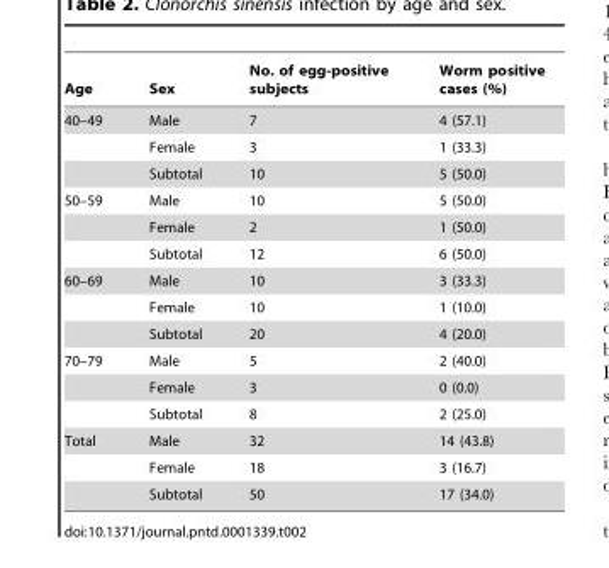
<table><thead><tr><td>Age</td><td>Sex</td><td>No. of egg-positive subjects</td><td>Worm positive cases (%)</td></tr></thead><tbody><tr><td rowspan="3">40–49</td><td>Male</td><td>7</td><td>4 (57.1)</td></tr><tr><td>Female</td><td>3</td><td>1 (33.3)</td></tr><tr><td>Subtotal</td><td>10</td><td>5 (50.0)</td></tr><tr><td rowspan="3">50–59</td><td>Male</td><td>10</td><td>5 (50.0)</td></tr><tr><td>Female</td><td>2</td><td>1 (50.0)</td></tr><tr><td>Subtotal</td><td>12</td><td>6 (50.0)</td></tr><tr><td rowspan="3">60–69</td><td>Male</td><td>10</td><td>3 (33.3)</td></tr><tr><td>Female</td><td>10</td><td>1 (10.0)</td></tr><tr><td>Subtotal</td><td>20</td><td>4 (20.0)</td></tr><tr><td rowspan="3">70–79</td><td>Male</td><td>5</td><td>2 (40.0)</td></tr><tr><td>Female</td><td>3</td><td>0 (0.0)</td></tr><tr><td>Subtotal</td><td>8</td><td>2 (25.0)</td></tr><tr><td rowspan="3">Total</td><td>Male</td><td>32</td><td>14 (43.8)</td></tr><tr><td>Female</td><td>18</td><td>3 (16.7)</td></tr><tr><td>Subtotal</td><td>50</td><td>17 (34.0)</td></tr></tbody></table>